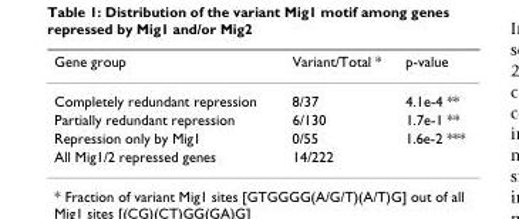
<table><thead><tr><td>Gene group</td><td>Variant/Total *</td><td>p-value</td></tr></thead><tbody><tr><td>Completely redundant repression</td><td>8/37</td><td>4.1e-4 **</td></tr><tr><td>Partially redundant repression</td><td>6/130</td><td>1.7e-1 **</td></tr><tr><td>Repression only by Mig1</td><td>0/55</td><td>1.6e-2 ***</td></tr><tr><td>All Mig1/2 repressed genes</td><td>14/222</td><td></td></tr></tbody></table>